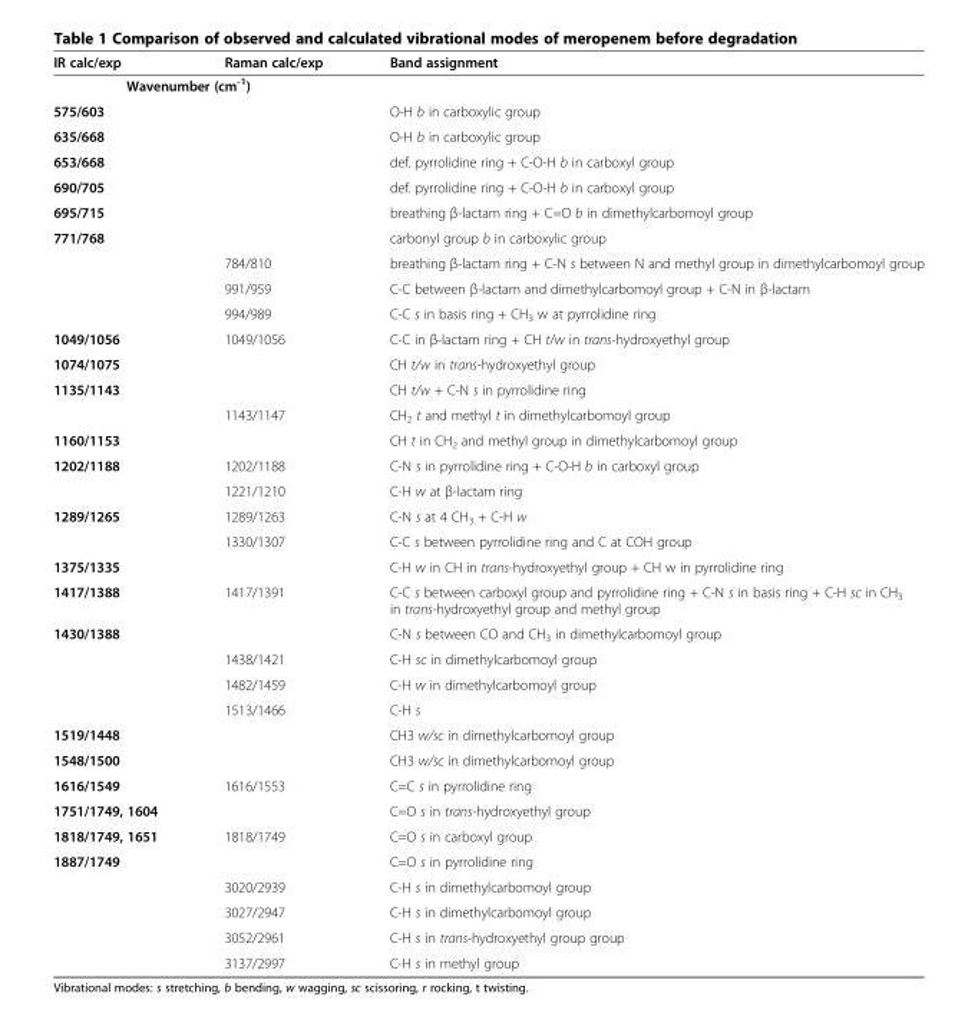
<table><thead><tr><td>IR calc/exp</td><td>Raman calc/exp</td><td>Band assignment</td></tr></thead><tbody><tr><td colspan="3">Wavenumber (cm<sup>-1</sup>)</td></tr><tr><td>575/603</td><td></td><td>O-H b in carboxylic group</td></tr><tr><td>635/668</td><td></td><td>O-H b in carboxylic group</td></tr><tr><td>653/668</td><td></td><td>def. pyrrolidine ring + C-O-H b in carboxyl group</td></tr><tr><td>690/705</td><td></td><td>def. pyrrolidine ring + C-O-H b in carboxyl group</td></tr><tr><td>695/715</td><td></td><td>breathing β-lactam ring + C=O b in dimethylcarbomoyl group</td></tr><tr><td rowspan="4">771/768</td><td></td><td>carbonyl group b in carboxylic group</td></tr><tr><td>784/810</td><td>breathing β-lactam ring + C-N s between N and methyl group in dimethylcarbomoyl group</td></tr><tr><td>991/959</td><td>C-C between β-lactam and dimethylcarbomoyl group + C-N in β-lactam</td></tr><tr><td>994/989</td><td>C-C s in basis ring + CH<sub>3</sub> w at pyrrolidine ring</td></tr><tr><td>1049/1056</td><td>1049/1056</td><td>C-C in β-lactam ring + CH t/w in trans-hydroxyethyl group</td></tr><tr><td>1074/1075</td><td></td><td>CH t/w in trans-hydroxyethyl group</td></tr><tr><td rowspan="2">1135/1143</td><td></td><td>CH t/w + C-N s in pyrrolidine ring</td></tr><tr><td>1143/1147</td><td>CH<sub>2</sub> t and methyl t in dimethylcarbomoyl group</td></tr><tr><td>1160/1153</td><td></td><td>CH t in CH<sub>2</sub> and methyl group in dimethylcarbomoyl group</td></tr><tr><td rowspan="2">1202/1188</td><td>1202/1188</td><td>C-N s in pyrrolidine ring + C-O-H b in carboxyl group</td></tr><tr><td>1221/1210</td><td>C-H w at β-lactam ring</td></tr><tr><td rowspan="2">1289/1265</td><td>1289/1263</td><td>C-N s at 4 CH<sub>3</sub> + C-H w</td></tr><tr><td>1330/1307</td><td>C-C s between pyrrolidine ring and C at COH group</td></tr><tr><td>1375/1335</td><td></td><td>C-H w in CH in trans-hydroxyethyl group + CH w in pyrrolidine ring</td></tr><tr><td>1417/1388</td><td>1417/1391</td><td>C-C s between carboxyl group and pyrrolidine ring + C-N s in basis ring + C-H sc in CH<sub>3</sub> in trans-hydroxyethyl group and methyl group</td></tr><tr><td rowspan="4">1430/1388</td><td></td><td>C-N s between CO and CH<sub>3</sub> in dimethylcarbomoyl group</td></tr><tr><td>1438/1421</td><td>C-H sc in dimethylcarbomoyl group</td></tr><tr><td>1482/1459</td><td>C-H w in dimethylcarbomoyl group</td></tr><tr><td>1513/1466</td><td>C-H s</td></tr><tr><td>1519/1448</td><td></td><td>CH3 w/sc in dimethylcarbomoyl group</td></tr><tr><td>1548/1500</td><td></td><td>CH3 w/sc in dimethylcarbomoyl group</td></tr><tr><td>1616/1549</td><td>1616/1553</td><td>C=C s in pyrrolidine ring</td></tr><tr><td>1751/1749, 1604</td><td></td><td>C=O s in trans-hydroxyethyl group</td></tr><tr><td>1818/1749, 1651</td><td>1818/1749</td><td>C=O s in carboxyl group</td></tr><tr><td rowspan="5">1887/1749</td><td></td><td>C=O s in pyrrolidine ring</td></tr><tr><td>3020/2939</td><td>C-H s in dimethylcarbomoyl group</td></tr><tr><td>3027/2947</td><td>C-H s in dimethylcarbomoyl group</td></tr><tr><td>3052/2961</td><td>C-H s in trans-hydroxyethyl group group</td></tr><tr><td>3137/2997</td><td>C-H s in methyl group</td></tr></tbody></table>